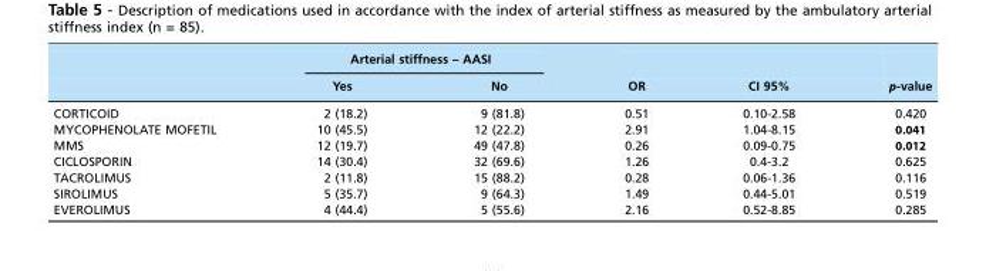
<table><thead><tr><td rowspan="2"></td><td colspan="2">Arterial stiffness – AASI</td><td rowspan="2">OR</td><td rowspan="2">CI 95%</td><td rowspan="2">p-value</td></tr><tr><td>Yes</td><td>No</td></tr></thead><tbody><tr><td>CORTICOID</td><td>2 (18.2)</td><td>9 (81.8)</td><td>0.51</td><td>0.10-2.58</td><td>0.420</td></tr><tr><td>MYCOPHENOLATE MOFETIL</td><td>10 (45.5)</td><td>12 (22.2)</td><td>2.91</td><td>1.04-8.15</td><td>0.041</td></tr><tr><td>MMS</td><td>12 (19.7)</td><td>49 (47.8)</td><td>0.26</td><td>0.09-0.75</td><td>0.012</td></tr><tr><td>CICLOSPORIN</td><td>14 (30.4)</td><td>32 (69.6)</td><td>1.26</td><td>0.4-3.2</td><td>0.625</td></tr><tr><td>TACROLIMUS</td><td>2 (11.8)</td><td>15 (88.2)</td><td>0.28</td><td>0.06-1.36</td><td>0.116</td></tr><tr><td>SIROLIMUS</td><td>5 (35.7)</td><td>9 (64.3)</td><td>1.49</td><td>0.44-5.01</td><td>0.519</td></tr><tr><td>EVEROLIMUS</td><td>4 (44.4)</td><td>5 (55.6)</td><td>2.16</td><td>0.52-8.85</td><td>0.285</td></tr></tbody></table>